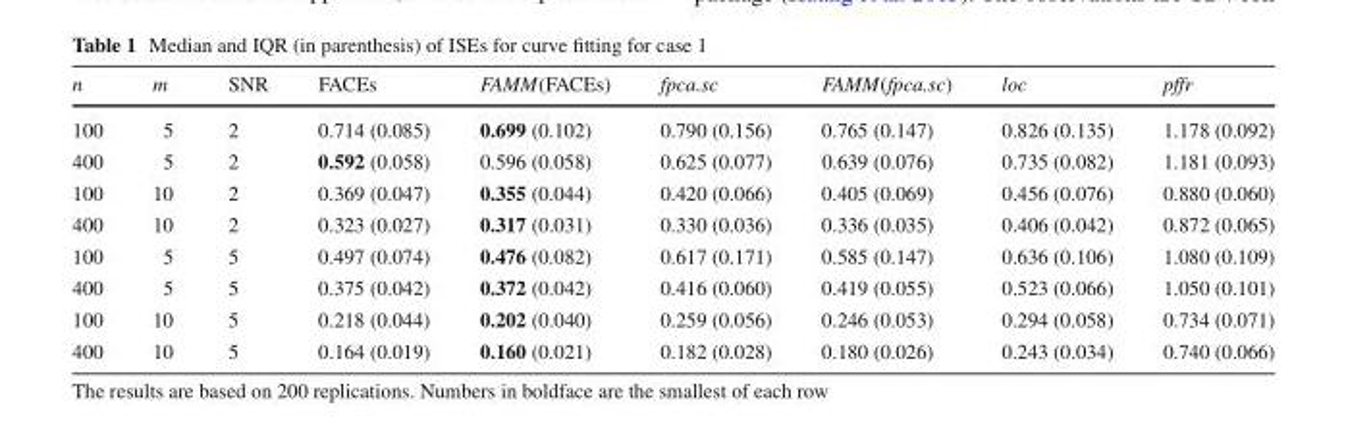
<table><thead><tr><td>n</td><td>m</td><td>SNR</td><td>FACEs</td><td>FAMM(FACEs)</td><td>fpca.sc</td><td>FAMM(fpca.sc)</td><td>loc</td><td>pffr</td></tr></thead><tbody><tr><td>100</td><td>5</td><td>2</td><td>0.714 (0.085)</td><td>0.699 (0.102)</td><td>0.790 (0.156)</td><td>0.765 (0.147)</td><td>0.826 (0.135)</td><td>1.178 (0.092)</td></tr><tr><td>400</td><td>5</td><td>2</td><td>0.592 (0.058)</td><td>0.596 (0.058)</td><td>0.625 (0.077)</td><td>0.639 (0.076)</td><td>0.735 (0.082)</td><td>1.181 (0.093)</td></tr><tr><td>100</td><td>10</td><td>2</td><td>0.369 (0.047)</td><td>0.355 (0.044)</td><td>0.420 (0.066)</td><td>0.405 (0.069)</td><td>0.456 (0.076)</td><td>0.880 (0.060)</td></tr><tr><td>400</td><td>10</td><td>2</td><td>0.323 (0.027)</td><td>0.317 (0.031)</td><td>0.330 (0.036)</td><td>0.336 (0.035)</td><td>0.406 (0.042)</td><td>0.872 (0.065)</td></tr><tr><td>100</td><td>5</td><td>5</td><td>0.497 (0.074)</td><td>0.476 (0.082)</td><td>0.617 (0.171)</td><td>0.585 (0.147)</td><td>0.636 (0.106)</td><td>1.080 (0.109)</td></tr><tr><td>400</td><td>5</td><td>5</td><td>0.375 (0.042)</td><td>0.372 (0.042)</td><td>0.416 (0.060)</td><td>0.419 (0.055)</td><td>0.523 (0.066)</td><td>1.050 (0.101)</td></tr><tr><td>100</td><td>10</td><td>5</td><td>0.218 (0.044)</td><td>0.202 (0.040)</td><td>0.259 (0.056)</td><td>0.246 (0.053)</td><td>0.294 (0.058)</td><td>0.734 (0.071)</td></tr><tr><td>400</td><td>10</td><td>5</td><td>0.164 (0.019)</td><td>0.160 (0.021)</td><td>0.182 (0.028)</td><td>0.180 (0.026)</td><td>0.243 (0.034)</td><td>0.740 (0.066)</td></tr></tbody></table>